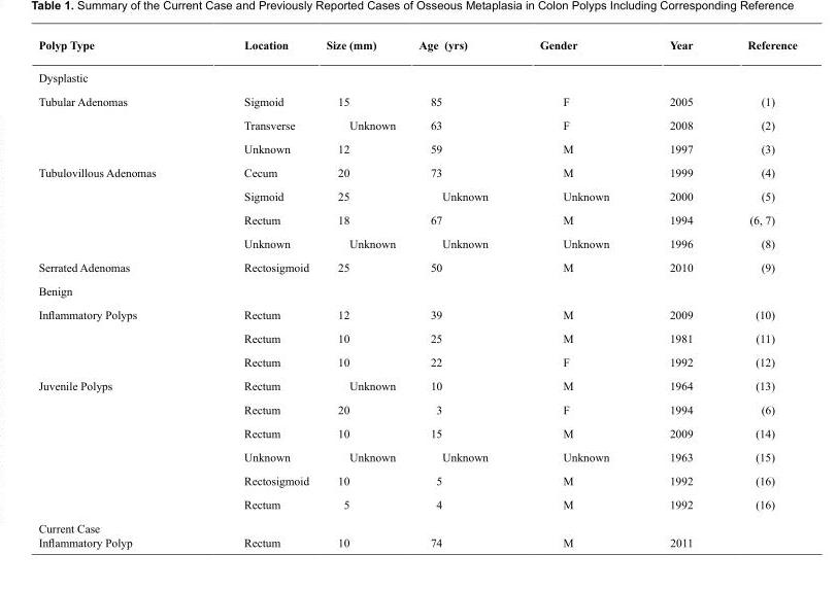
<table><thead><tr><td>Polyp Type</td><td>Location</td><td>Size (mm)</td><td>Age (yrs)</td><td>Gender</td><td>Year</td><td>Reference</td></tr></thead><tbody><tr><td colspan="7">Dysplastic</td></tr><tr><td rowspan="3">Tubular Adenomas</td><td>Sigmoid</td><td>15</td><td>85</td><td>F</td><td>2005</td><td>(1)</td></tr><tr><td>Transverse</td><td>Unknown</td><td>63</td><td>F</td><td>2008</td><td>(2)</td></tr><tr><td>Unknown</td><td>12</td><td>59</td><td>M</td><td>1997</td><td>(3)</td></tr><tr><td rowspan="4">Tubulovillous Adenomas</td><td>Cecum</td><td>20</td><td>73</td><td>M</td><td>1999</td><td>(4)</td></tr><tr><td>Sigmoid</td><td>25</td><td>Unknown</td><td>Unknown</td><td>2000</td><td>(5)</td></tr><tr><td>Rectum</td><td>18</td><td>67</td><td>M</td><td>1994</td><td>(6, 7)</td></tr><tr><td>Unknown</td><td>Unknown</td><td>Unknown</td><td>Unknown</td><td>1996</td><td>(8)</td></tr><tr><td>Serrated Adenomas</td><td>Rectosigmoid</td><td>25</td><td>50</td><td>M</td><td>2010</td><td>(9)</td></tr><tr><td colspan="7">Benign</td></tr><tr><td rowspan="3">Inflammatory Polyps</td><td>Rectum</td><td>12</td><td>39</td><td>M</td><td>2009</td><td>(10)</td></tr><tr><td>Rectum</td><td>10</td><td>25</td><td>M</td><td>1981</td><td>(11)</td></tr><tr><td>Rectum</td><td>10</td><td>22</td><td>F</td><td>1992</td><td>(12)</td></tr><tr><td rowspan="6">Juvenile Polyps</td><td>Rectum</td><td>Unknown</td><td>10</td><td>M</td><td>1964</td><td>(13)</td></tr><tr><td>Rectum</td><td>20</td><td>3</td><td>F</td><td>1994</td><td>(6)</td></tr><tr><td>Rectum</td><td>10</td><td>15</td><td>M</td><td>2009</td><td>(14)</td></tr><tr><td>Unknown</td><td>Unknown</td><td>Unknown</td><td>Unknown</td><td>1963</td><td>(15)</td></tr><tr><td>Rectosigmoid</td><td>10</td><td>5</td><td>M</td><td>1992</td><td>(16)</td></tr><tr><td>Rectum</td><td>5</td><td>4</td><td>M</td><td>1992</td><td>(16)</td></tr><tr><td>Current Case Inflammatory Polyp</td><td>Rectum</td><td>10</td><td>74</td><td>M</td><td>2011</td><td></td></tr></tbody></table>